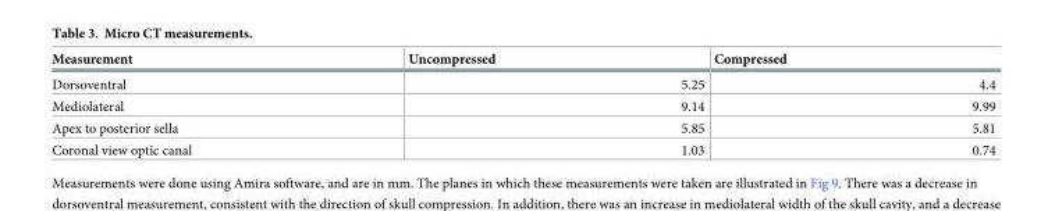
<table><thead><tr><td>Measurement</td><td>Uncompressed</td><td>Compressed</td></tr></thead><tbody><tr><td>Dorsoventral</td><td>5.25</td><td>4.4</td></tr><tr><td>Mediolateral</td><td>9.14</td><td>9.99</td></tr><tr><td>Apex to posterior sella</td><td>5.85</td><td>5.81</td></tr><tr><td>Coronal view optic canal</td><td>1.03</td><td>0.74</td></tr></tbody></table>